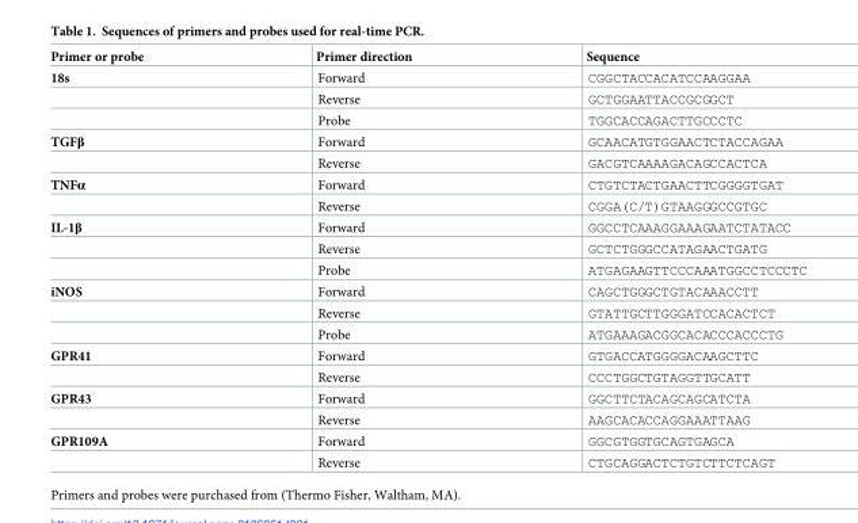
<table><thead><tr><td>Primer or probe</td><td>Primer direction</td><td>Sequence</td></tr></thead><tbody><tr><td rowspan="3">18s</td><td>Forward</td><td>CGGCTACCACATCCAAGGAA</td></tr><tr><td>Reverse</td><td>GCTGGAATTACCGCGGCT</td></tr><tr><td>Probe</td><td>TGGCACCAGACTTGCCCTC</td></tr><tr><td rowspan="2">TGFβ</td><td>Forward</td><td>GCAACATGTGGAACTCTACCAGAA</td></tr><tr><td>Reverse</td><td>GACGTCAAAAGACAGCCACTCA</td></tr><tr><td rowspan="2">TNFα</td><td>Forward</td><td>CTGTCTACTGAACTTCGGGGTGAT</td></tr><tr><td>Reverse</td><td>CGGA(C/T)GTAAGGGCCGTGC</td></tr><tr><td rowspan="3">IL-1β</td><td>Forward</td><td>GGCCTCAAAGGAAAGAATCTATACC</td></tr><tr><td>Reverse</td><td>GCTCTGGGCCATAGAACTGATG</td></tr><tr><td>Probe</td><td>ATGAGAAGTTCCCAAATGGCCTCCCTC</td></tr><tr><td rowspan="3">iNOS</td><td>Forward</td><td>CAGCTGGGCTGTACAAACCTT</td></tr><tr><td>Reverse</td><td>GTATTGCTTGGGATCCACACTCT</td></tr><tr><td>Probe</td><td>ATGAAAGACGGCACACCCACCCTG</td></tr><tr><td rowspan="2">GPR41</td><td>Forward</td><td>GTGACCATGGGGACAAGCTTC</td></tr><tr><td>Reverse</td><td>CCCTGGCTGTAGGTTGCATT</td></tr><tr><td rowspan="2">GPR43</td><td>Forward</td><td>GGCTTCTACAGCAGCATCTA</td></tr><tr><td>Reverse</td><td>AAGCACACCAGGAAATTAAG</td></tr><tr><td rowspan="2">GPR109A</td><td>Forward</td><td>GGCGTGGTGCAGTGAGCA</td></tr><tr><td>Reverse</td><td>CTGCAGGACTCTGTCTTCTCAGT</td></tr></tbody></table>